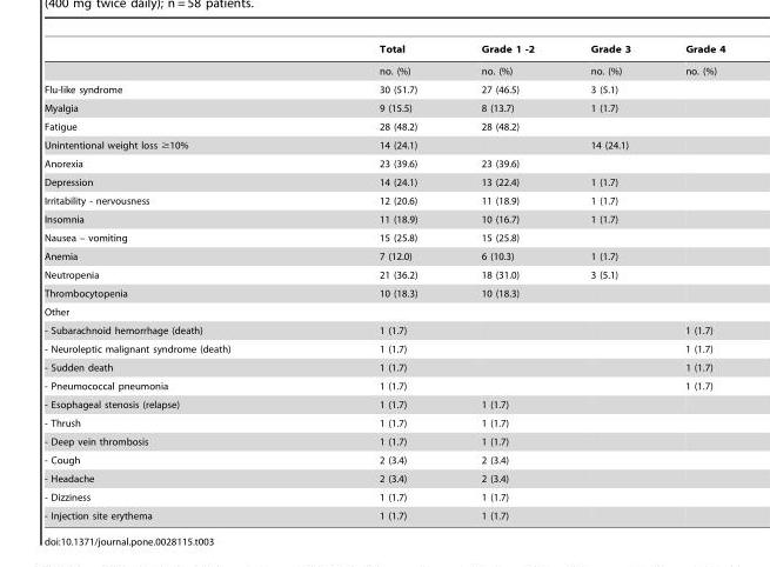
<table><thead><tr><td></td><td>Total</td><td>Grade 1 -2</td><td>Grade 3</td><td>Grade 4</td></tr></thead><tbody><tr><td></td><td>no. (%)</td><td>no. (%)</td><td>no. (%)</td><td>no. (%)</td></tr><tr><td>Flu-like syndrome</td><td>30 (51.7)</td><td>27 (46.5)</td><td>3 (5.1)</td><td></td></tr><tr><td>Myalgia</td><td>9 (15.5)</td><td>8 (13.7)</td><td>1 (1.7)</td><td></td></tr><tr><td>Fatigue</td><td>28 (48.2)</td><td>28 (48.2)</td><td></td><td></td></tr><tr><td>Unintentional weight loss ≥10%</td><td>14 (24.1)</td><td></td><td>14 (24.1)</td><td></td></tr><tr><td>Anorexia</td><td>23 (39.6)</td><td>23 (39.6)</td><td></td><td></td></tr><tr><td>Depression</td><td>14 (24.1)</td><td>13 (22.4)</td><td>1 (1.7)</td><td></td></tr><tr><td>Irritability - nervousness</td><td>12 (20.6)</td><td>11 (18.9)</td><td>1 (1.7)</td><td></td></tr><tr><td>Insomnia</td><td>11 (18.9)</td><td>10 (16.7)</td><td>1 (1.7)</td><td></td></tr><tr><td>Nausea – vomiting</td><td>15 (25.8)</td><td>15 (25.8)</td><td></td><td></td></tr><tr><td>Anemia</td><td>7 (12.0)</td><td>6 (10.3)</td><td>1 (1.7)</td><td></td></tr><tr><td>Neutropenia</td><td>21 (36.2)</td><td>18 (31.0)</td><td>3 (5.1)</td><td></td></tr><tr><td>Thrombocytopenia</td><td>10 (18.3)</td><td>10 (18.3)</td><td></td><td></td></tr><tr><td colspan="5">Other</td></tr><tr><td>- Subarachnoid hemorrhage (death)</td><td>1 (1.7)</td><td></td><td></td><td>1 (1.7)</td></tr><tr><td>- Neuroleptic malignant syndrome (death)</td><td>1 (1.7)</td><td></td><td></td><td>1 (1.7)</td></tr><tr><td>- Sudden death</td><td>1 (1.7)</td><td></td><td></td><td>1 (1.7)</td></tr><tr><td>- Pneumococcal pneumonia</td><td>1 (1.7)</td><td></td><td></td><td>1 (1.7)</td></tr><tr><td>- Esophageal stenosis (relapse)</td><td>1 (1.7)</td><td>1 (1.7)</td><td></td><td></td></tr><tr><td>- Thrush</td><td>1 (1.7)</td><td>1 (1.7)</td><td></td><td></td></tr><tr><td>- Deep vein thrombosis</td><td>1 (1.7)</td><td>1 (1.7)</td><td></td><td></td></tr><tr><td>- Cough</td><td>2 (3.4)</td><td>2 (3.4)</td><td></td><td></td></tr><tr><td>- Headache</td><td>2 (3.4)</td><td>2 (3.4)</td><td></td><td></td></tr><tr><td>- Dizziness</td><td>1 (1.7)</td><td>1 (1.7)</td><td></td><td></td></tr><tr><td>- Injection site erythema</td><td>1 (1.7)</td><td>1 (1.7)</td><td></td><td></td></tr></tbody></table>